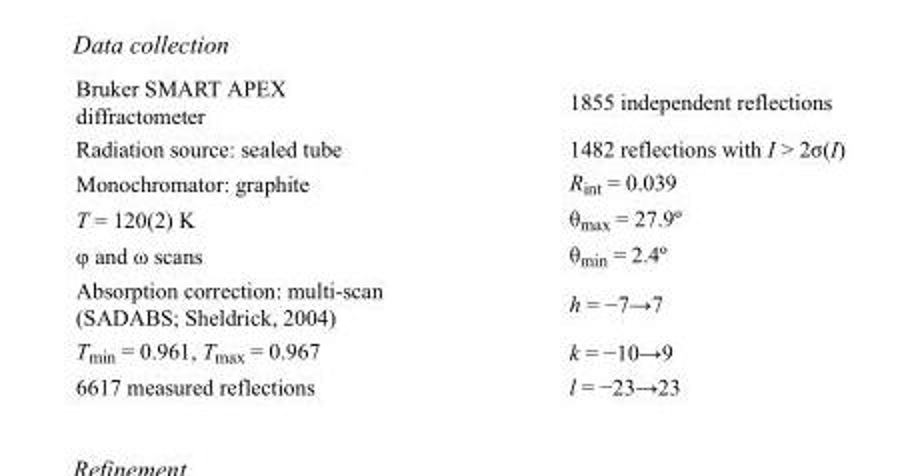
<table><tbody><tr><td>Bruker SMART APEX diffractometer</td><td>1855 independent reflections</td></tr><tr><td>Radiation source: sealed tube</td><td>1482 reflections with I &gt; 2σ(I)</td></tr><tr><td>Monochromator: graphite</td><td>R<sub>int</sub> = 0.039</td></tr><tr><td>T = 120(2) K</td><td>θ<sub>max</sub> = 27.9º</td></tr><tr><td>φ and ω scans</td><td>θ<sub>min</sub> = 2.4º</td></tr><tr><td>Absorption correction: multi-scan (SADABS; Sheldrick, 2004)</td><td>h = −7→7</td></tr><tr><td>T<sub>min</sub> = 0.961, T<sub>max</sub> = 0.967</td><td>k = −10→9</td></tr><tr><td>6617 measured reflections</td><td>l = −23→23</td></tr></tbody></table>